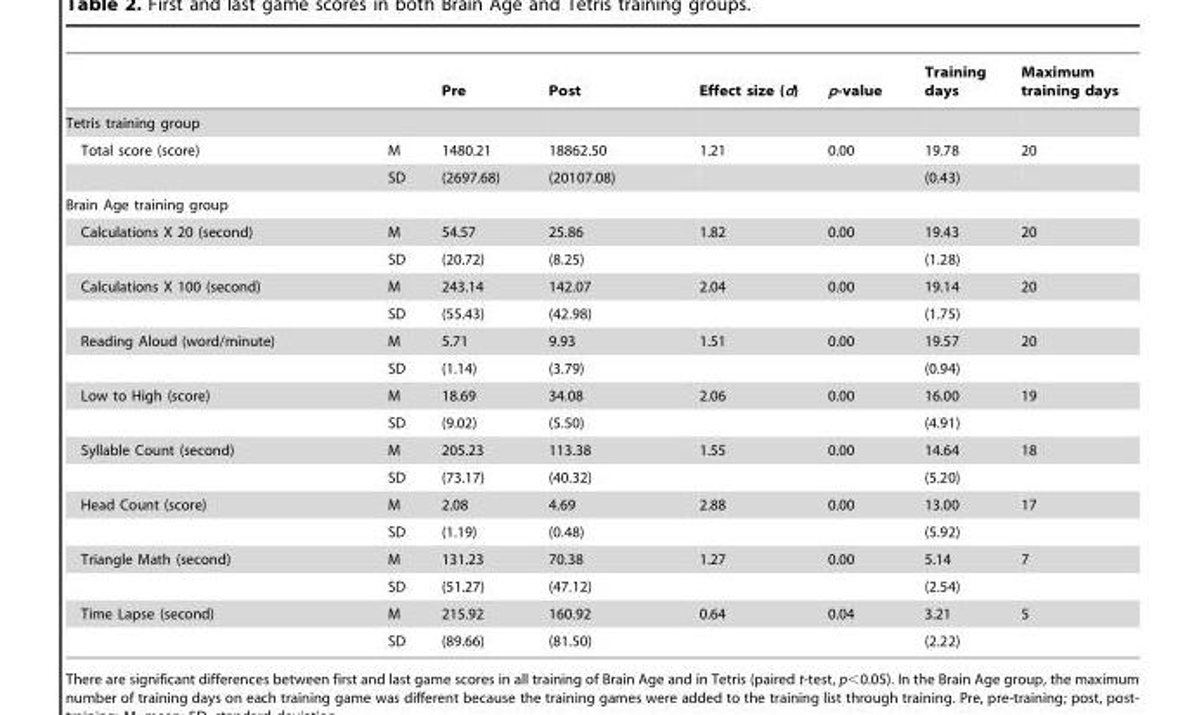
<table><thead><tr><td></td><td></td><td>Pre</td><td>Post</td><td>Effect size (d)</td><td>p-value</td><td>Training days</td><td>Maximum training days</td></tr></thead><tbody><tr><td colspan="8">Tetris training group</td></tr><tr><td rowspan="2">Total score (score)</td><td>M</td><td>1480.21</td><td>18862.50</td><td>1.21</td><td>0.00</td><td>19.78</td><td>20</td></tr><tr><td>SD</td><td>(2697.68)</td><td>(20107.08)</td><td></td><td></td><td>(0.43)</td><td></td></tr><tr><td colspan="8">Brain Age training group</td></tr><tr><td rowspan="2">Calculations X 20 (second)</td><td>M</td><td>54.57</td><td>25.86</td><td>1.82</td><td>0.00</td><td>19.43</td><td>20</td></tr><tr><td>SD</td><td>(20.72)</td><td>(8.25)</td><td></td><td></td><td>(1.28)</td><td></td></tr><tr><td rowspan="2">Calculations X 100 (second)</td><td>M</td><td>243.14</td><td>142.07</td><td>2.04</td><td>0.00</td><td>19.14</td><td>20</td></tr><tr><td>SD</td><td>(55.43)</td><td>(42.98)</td><td></td><td></td><td>(1.75)</td><td></td></tr><tr><td rowspan="2">Reading Aloud (word/minute)</td><td>M</td><td>5.71</td><td>9.93</td><td>1.51</td><td>0.00</td><td>19.57</td><td>20</td></tr><tr><td>SD</td><td>(1.14)</td><td>(3.79)</td><td></td><td></td><td>(0.94)</td><td></td></tr><tr><td rowspan="2">Low to High (score)</td><td>M</td><td>18.69</td><td>34.08</td><td>2.06</td><td>0.00</td><td>16.00</td><td>19</td></tr><tr><td>SD</td><td>(9.02)</td><td>(5.50)</td><td></td><td></td><td>(4.91)</td><td></td></tr><tr><td rowspan="2">Syllable Count (second)</td><td>M</td><td>205.23</td><td>113.38</td><td>1.55</td><td>0.00</td><td>14.64</td><td>18</td></tr><tr><td>SD</td><td>(73.17)</td><td>(40.32)</td><td></td><td></td><td>(5.20)</td><td></td></tr><tr><td rowspan="2">Head Count (score)</td><td>M</td><td>2.08</td><td>4.69</td><td>2.88</td><td>0.00</td><td>13.00</td><td>17</td></tr><tr><td>SD</td><td>(1.19)</td><td>(0.48)</td><td></td><td></td><td>(5.92)</td><td></td></tr><tr><td rowspan="2">Triangle Math (second)</td><td>M</td><td>131.23</td><td>70.38</td><td>1.27</td><td>0.00</td><td>5.14</td><td>7</td></tr><tr><td>SD</td><td>(51.27)</td><td>(47.12)</td><td></td><td></td><td>(2.54)</td><td></td></tr><tr><td rowspan="2">Time Lapse (second)</td><td>M</td><td>215.92</td><td>160.92</td><td>0.64</td><td>0.04</td><td>3.21</td><td>5</td></tr><tr><td>SD</td><td>(89.66)</td><td>(81.50)</td><td></td><td></td><td>(2.22)</td><td></td></tr></tbody></table>